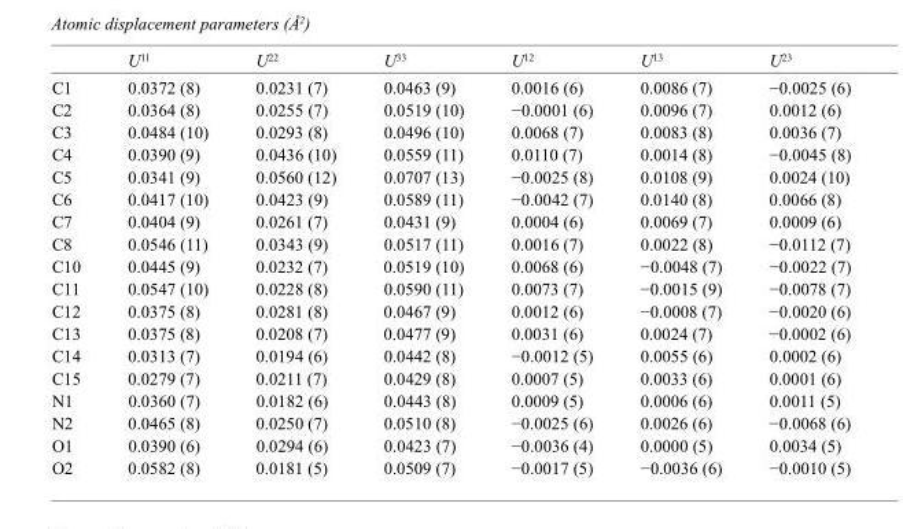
<table><thead><tr><td></td><td>U<sup>11</sup></td><td>U<sup>22</sup></td><td>U<sup>33</sup></td><td>U<sup>12</sup></td><td>U<sup>13</sup></td><td>U<sup>23</sup></td></tr></thead><tbody><tr><td>C1</td><td>0.0372 (8)</td><td>0.0231 (7)</td><td>0.0463 (9)</td><td>0.0016 (6)</td><td>0.0086 (7)</td><td>−0.0025 (6)</td></tr><tr><td>C2</td><td>0.0364 (8)</td><td>0.0255 (7)</td><td>0.0519 (10)</td><td>−0.0001 (6)</td><td>0.0096 (7)</td><td>0.0012 (6)</td></tr><tr><td>C3</td><td>0.0484 (10)</td><td>0.0293 (8)</td><td>0.0496 (10)</td><td>0.0068 (7)</td><td>0.0083 (8)</td><td>0.0036 (7)</td></tr><tr><td>C4</td><td>0.0390 (9)</td><td>0.0436 (10)</td><td>0.0559 (11)</td><td>0.0110 (7)</td><td>0.0014 (8)</td><td>−0.0045 (8)</td></tr><tr><td>C5</td><td>0.0341 (9)</td><td>0.0560 (12)</td><td>0.0707 (13)</td><td>−0.0025 (8)</td><td>0.0108 (9)</td><td>0.0024 (10)</td></tr><tr><td>C6</td><td>0.0417 (10)</td><td>0.0423 (9)</td><td>0.0589 (11)</td><td>−0.0042 (7)</td><td>0.0140 (8)</td><td>0.0066 (8)</td></tr><tr><td>C7</td><td>0.0404 (9)</td><td>0.0261 (7)</td><td>0.0431 (9)</td><td>0.0004 (6)</td><td>0.0069 (7)</td><td>0.0009 (6)</td></tr><tr><td>C8</td><td>0.0546 (11)</td><td>0.0343 (9)</td><td>0.0517 (11)</td><td>0.0016 (7)</td><td>0.0022 (8)</td><td>−0.0112 (7)</td></tr><tr><td>C10</td><td>0.0445 (9)</td><td>0.0232 (7)</td><td>0.0519 (10)</td><td>0.0068 (6)</td><td>−0.0048 (7)</td><td>−0.0022 (7)</td></tr><tr><td>C11</td><td>0.0547 (10)</td><td>0.0228 (8)</td><td>0.0590 (11)</td><td>0.0073 (7)</td><td>−0.0015 (9)</td><td>−0.0078 (7)</td></tr><tr><td>C12</td><td>0.0375 (8)</td><td>0.0281 (8)</td><td>0.0467 (9)</td><td>0.0012 (6)</td><td>−0.0008 (7)</td><td>−0.0020 (6)</td></tr><tr><td>C13</td><td>0.0375 (8)</td><td>0.0208 (7)</td><td>0.0477 (9)</td><td>0.0031 (6)</td><td>0.0024 (7)</td><td>−0.0002 (6)</td></tr><tr><td>C14</td><td>0.0313 (7)</td><td>0.0194 (6)</td><td>0.0442 (8)</td><td>−0.0012 (5)</td><td>0.0055 (6)</td><td>0.0002 (6)</td></tr><tr><td>C15</td><td>0.0279 (7)</td><td>0.0211 (7)</td><td>0.0429 (8)</td><td>0.0007 (5)</td><td>0.0033 (6)</td><td>0.0001 (6)</td></tr><tr><td>N1</td><td>0.0360 (7)</td><td>0.0182 (6)</td><td>0.0443 (8)</td><td>0.0009 (5)</td><td>0.0006 (6)</td><td>0.0011 (5)</td></tr><tr><td>N2</td><td>0.0465 (8)</td><td>0.0250 (7)</td><td>0.0510 (8)</td><td>−0.0025 (6)</td><td>0.0026 (6)</td><td>−0.0068 (6)</td></tr><tr><td>O1</td><td>0.0390 (6)</td><td>0.0294 (6)</td><td>0.0423 (7)</td><td>−0.0036 (4)</td><td>0.0000 (5)</td><td>0.0034 (5)</td></tr><tr><td>O2</td><td>0.0582 (8)</td><td>0.0181 (5)</td><td>0.0509 (7)</td><td>−0.0017 (5)</td><td>−0.0036 (6)</td><td>−0.0010 (5)</td></tr></tbody></table>